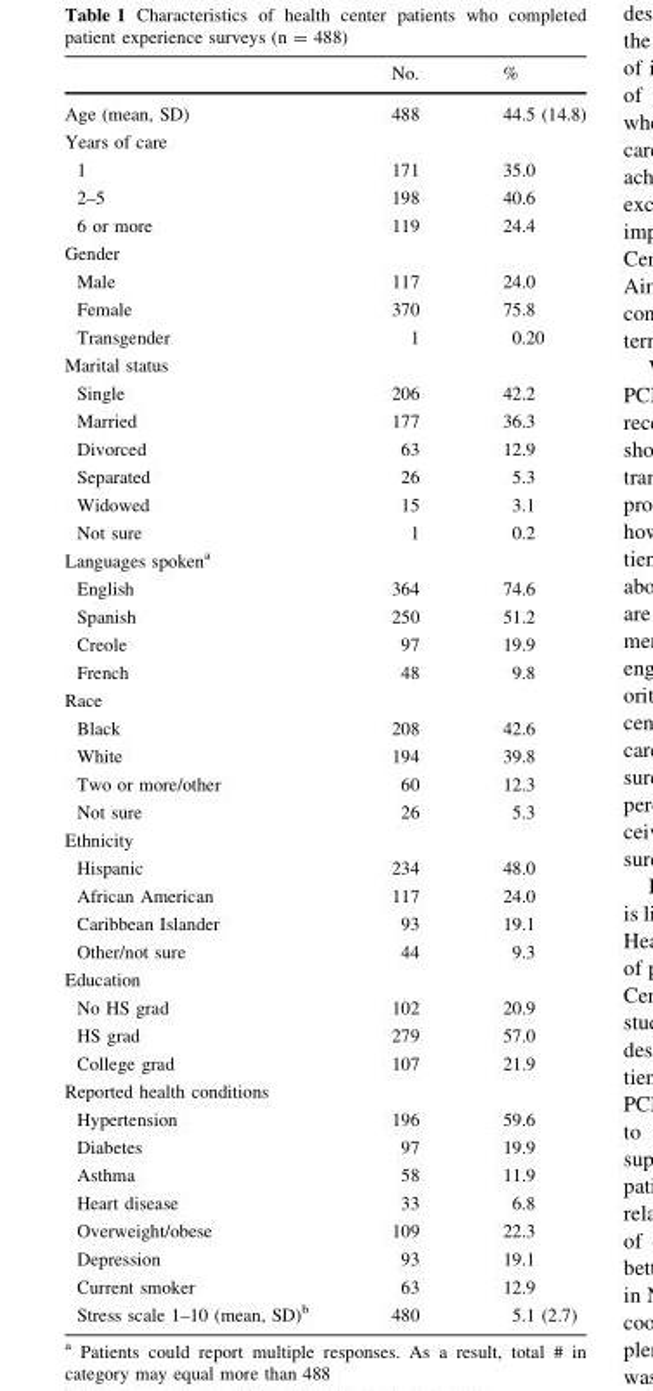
<table><thead><tr><td></td><td>No.</td><td>%</td></tr></thead><tbody><tr><td>Age (mean, SD)</td><td>488</td><td>44.5 (14.8)</td></tr><tr><td colspan="3">Years of care</td></tr><tr><td>1</td><td>171</td><td>35.0</td></tr><tr><td>2–5</td><td>198</td><td>40.6</td></tr><tr><td>6 or more</td><td>119</td><td>24.4</td></tr><tr><td colspan="3">Gender</td></tr><tr><td>Male</td><td>117</td><td>24.0</td></tr><tr><td>Female</td><td>370</td><td>75.8</td></tr><tr><td>Transgender</td><td>1</td><td>0.20</td></tr><tr><td colspan="3">Marital status</td></tr><tr><td>Single</td><td>206</td><td>42.2</td></tr><tr><td>Married</td><td>177</td><td>36.3</td></tr><tr><td>Divorced</td><td>63</td><td>12.9</td></tr><tr><td>Separated</td><td>26</td><td>5.3</td></tr><tr><td>Widowed</td><td>15</td><td>3.1</td></tr><tr><td>Not sure</td><td>1</td><td>0.2</td></tr><tr><td colspan="3">Languages spoken<sup>a</sup></td></tr><tr><td>English</td><td>364</td><td>74.6</td></tr><tr><td>Spanish</td><td>250</td><td>51.2</td></tr><tr><td>Creole</td><td>97</td><td>19.9</td></tr><tr><td>French</td><td>48</td><td>9.8</td></tr><tr><td colspan="3">Race</td></tr><tr><td>Black</td><td>208</td><td>42.6</td></tr><tr><td>White</td><td>194</td><td>39.8</td></tr><tr><td>Two or more/other</td><td>60</td><td>12.3</td></tr><tr><td>Not sure</td><td>26</td><td>5.3</td></tr><tr><td colspan="3">Ethnicity</td></tr><tr><td>Hispanic</td><td>234</td><td>48.0</td></tr><tr><td>African American</td><td>117</td><td>24.0</td></tr><tr><td>Caribbean Islander</td><td>93</td><td>19.1</td></tr><tr><td>Other/not sure</td><td>44</td><td>9.3</td></tr><tr><td colspan="3">Education</td></tr><tr><td>No HS grad</td><td>102</td><td>20.9</td></tr><tr><td>HS grad</td><td>279</td><td>57.0</td></tr><tr><td>College grad</td><td>107</td><td>21.9</td></tr><tr><td colspan="3">Reported health conditions</td></tr><tr><td>Hypertension</td><td>196</td><td>59.6</td></tr><tr><td>Diabetes</td><td>97</td><td>19.9</td></tr><tr><td>Asthma</td><td>58</td><td>11.9</td></tr><tr><td>Heart disease</td><td>33</td><td>6.8</td></tr><tr><td>Overweight/obese</td><td>109</td><td>22.3</td></tr><tr><td>Depression</td><td>93</td><td>19.1</td></tr><tr><td>Current smoker</td><td>63</td><td>12.9</td></tr><tr><td>Stress scale 1–10 (mean, SD)<sup>b</sup></td><td>480</td><td>5.1 (2.7)</td></tr></tbody></table>